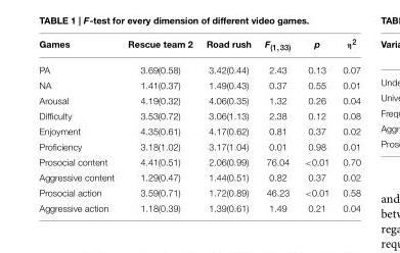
<table><thead><tr><td>Games</td><td>Rescue team 2</td><td>Road rush</td><td>F<sub>(1,33)</sub></td><td>p</td><td>η<sup>2</sup></td></tr></thead><tbody><tr><td>PA</td><td>3.69(0.58)</td><td>3.42(0.44)</td><td>2.43</td><td>0.13</td><td>0.07</td></tr><tr><td>NA</td><td>1.41(0.37)</td><td>1.49(0.43)</td><td>0.37</td><td>0.55</td><td>0.01</td></tr><tr><td>Arousal</td><td>4.19(0.32)</td><td>4.06(0.35)</td><td>1.32</td><td>0.26</td><td>0.04</td></tr><tr><td>Difficulty</td><td>3.53(0.72)</td><td>3.06(1.13)</td><td>2.38</td><td>0.12</td><td>0.08</td></tr><tr><td>Enjoyment</td><td>4.35(0.61)</td><td>4.17(0.62)</td><td>0.81</td><td>0.37</td><td>0.02</td></tr><tr><td>Proficiency</td><td>3.18(1.02)</td><td>3.17(1.04)</td><td>0.01</td><td>0.98</td><td>0.01</td></tr><tr><td>Prosocial content</td><td>4.41(0.51)</td><td>2.06(0.99)</td><td>76.04</td><td>&lt;0.01</td><td>0.70</td></tr><tr><td>Aggressive content</td><td>1.29(0.47)</td><td>1.44(0.51)</td><td>0.82</td><td>0.37</td><td>0.02</td></tr><tr><td>Prosocial action</td><td>3.59(0.71)</td><td>1.72(0.89)</td><td>46.23</td><td>&lt;0.01</td><td>0.58</td></tr><tr><td>Aggressive action</td><td>1.18(0.39)</td><td>1.39(0.61)</td><td>1.49</td><td>0.21</td><td>0.04</td></tr></tbody></table>